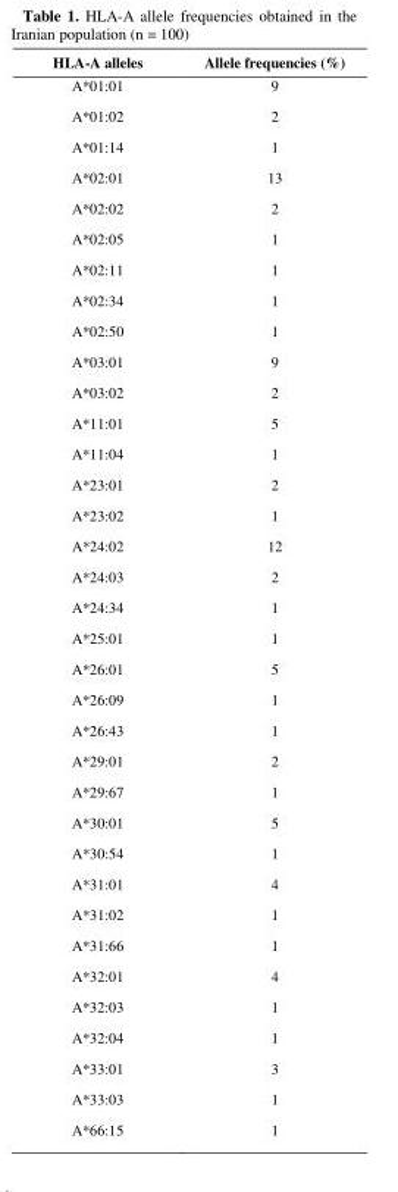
<table><thead><tr><td>HLA-A alleles</td><td>Allele frequencies (%)</td></tr></thead><tbody><tr><td>A*01:01</td><td>9</td></tr><tr><td>A*01:02</td><td>2</td></tr><tr><td>A*01:14</td><td>1</td></tr><tr><td>A*02:01</td><td>13</td></tr><tr><td>A*02:02</td><td>2</td></tr><tr><td>A*02:05</td><td>1</td></tr><tr><td>A*02:11</td><td>1</td></tr><tr><td>A*02:34</td><td>1</td></tr><tr><td>A*02:50</td><td>1</td></tr><tr><td>A*03:01</td><td>9</td></tr><tr><td>A*03:02</td><td>2</td></tr><tr><td>A*11:01</td><td>5</td></tr><tr><td>A*11:04</td><td>1</td></tr><tr><td>A*23:01</td><td>2</td></tr><tr><td>A*23:02</td><td>1</td></tr><tr><td>A*24:02</td><td>12</td></tr><tr><td>A*24:03</td><td>2</td></tr><tr><td>A*24:34</td><td>1</td></tr><tr><td>A*25:01</td><td>1</td></tr><tr><td>A*26:01</td><td>5</td></tr><tr><td>A*26:09</td><td>1</td></tr><tr><td>A*26:43</td><td>1</td></tr><tr><td>A*29:01</td><td>2</td></tr><tr><td>A*29:67</td><td>1</td></tr><tr><td>A*30:01</td><td>5</td></tr><tr><td>A*30:54</td><td>1</td></tr><tr><td>A*31:01</td><td>4</td></tr><tr><td>A*31:02</td><td>1</td></tr><tr><td>A*31:66</td><td>1</td></tr><tr><td>A*32:01</td><td>4</td></tr><tr><td>A*32:03</td><td>1</td></tr><tr><td>A*32:04</td><td>1</td></tr><tr><td>A*33:01</td><td>3</td></tr><tr><td>A*33:03</td><td>1</td></tr><tr><td>A*66:15</td><td>1</td></tr></tbody></table>